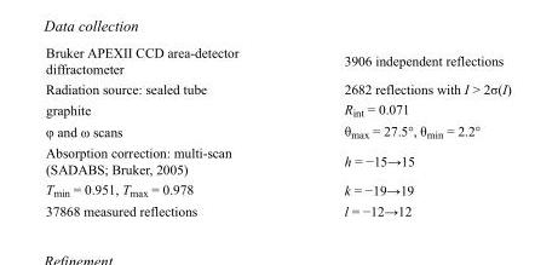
<table><tbody><tr><td>Bruker APEXII CCD area-detector diffractometer</td><td>3906 independent reflections</td></tr><tr><td>Radiation source: sealed tube</td><td>2682 reflections with I &gt; 2σ(I)</td></tr><tr><td>graphite</td><td>R<sub>int</sub> = 0.071</td></tr><tr><td>φ and ω scans</td><td>θ<sub>max</sub> = 27.5°, θ<sub>min</sub> = 2.2°</td></tr><tr><td>Absorption correction: multi-scan (SADABS; Bruker, 2005)</td><td>h = −15→15</td></tr><tr><td>T<sub>min</sub> = 0.951, T<sub>max</sub> = 0.978</td><td>k = −19→19</td></tr><tr><td>37868 measured reflections</td><td>l = −12→12</td></tr></tbody></table>